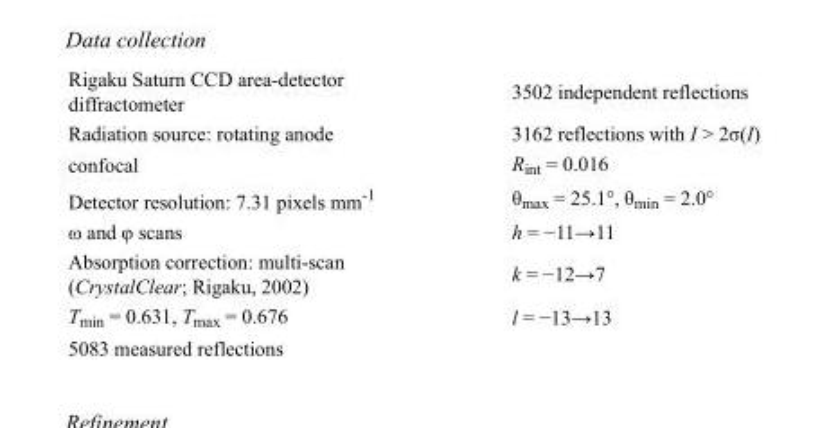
<table><tbody><tr><td>Rigaku Saturn CCD area-detector diffractometer</td><td>3502 independent reflections</td></tr><tr><td>Radiation source: rotating anode</td><td>3162 reflections with I &gt; 2σ(I)</td></tr><tr><td>confocal</td><td>R<sub>int</sub> = 0.016</td></tr><tr><td>Detector resolution: 7.31 pixels mm<sup>-1</sup></td><td>θ<sub>max</sub> = 25.1°, θ<sub>min</sub> = 2.0°</td></tr><tr><td>ω and φ scans</td><td>h = −11→11</td></tr><tr><td>Absorption correction: multi-scan (CrystalClear; Rigaku, 2002)</td><td>k = −12→7</td></tr><tr><td>T<sub>min</sub> = 0.631, T<sub>max</sub> = 0.676</td><td>l = −13→13</td></tr><tr><td>5083 measured reflections</td><td></td></tr></tbody></table>